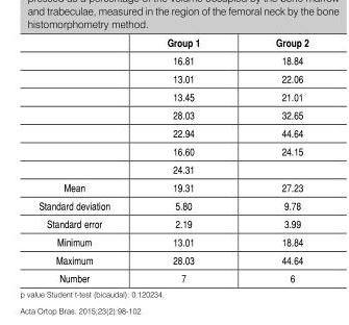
<table><thead><tr><td></td><td>Group 1</td><td>Group 2</td></tr></thead><tbody><tr><td></td><td>16.81</td><td>18.84</td></tr><tr><td></td><td>13.01</td><td>22.06</td></tr><tr><td></td><td>13.45</td><td>21.01</td></tr><tr><td></td><td>28.03</td><td>32.65</td></tr><tr><td></td><td>22.94</td><td>44.64</td></tr><tr><td></td><td>16.60</td><td>24.15</td></tr><tr><td></td><td>24.31</td><td></td></tr><tr><td>Mean</td><td>19.31</td><td>27.23</td></tr><tr><td>Standard deviation</td><td>5.80</td><td>9.78</td></tr><tr><td>Standard error</td><td>2.19</td><td>3.99</td></tr><tr><td>Minimum</td><td>13.01</td><td>18.84</td></tr><tr><td>Maximum</td><td>28.03</td><td>44.64</td></tr><tr><td>Number</td><td>7</td><td>6</td></tr></tbody></table>